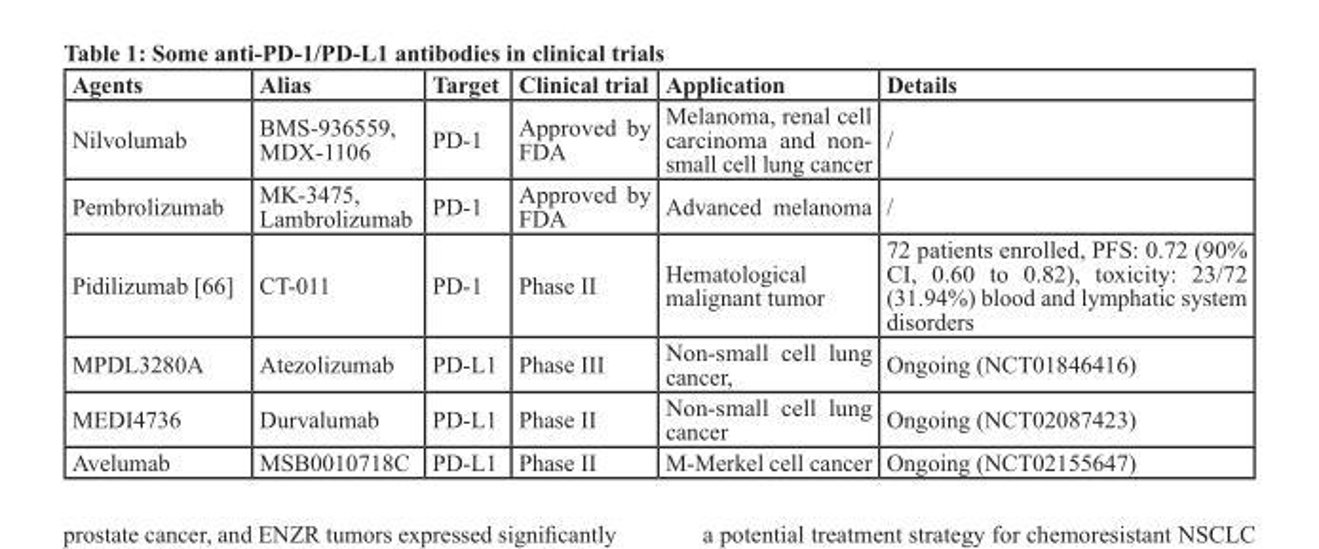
<table><thead><tr><td>Agents</td><td>Alias</td><td>Target</td><td>Clinical trial</td><td>Application</td><td>Details</td></tr></thead><tbody><tr><td>Nilvolumab</td><td>BMS-936559, MDX-1106</td><td>PD-1</td><td>Approved by FDA</td><td>Melanoma, renal cell carcinoma and non- small cell lung cancer</td><td>/</td></tr><tr><td>Pembrolizumab</td><td>MK-3475, Lambrolizumab</td><td>PD-1</td><td>Approved by FDA</td><td>Advanced melanoma</td><td>/</td></tr><tr><td>Pidilizumab [66]</td><td>CT-011</td><td>PD-1</td><td>Phase II</td><td>Hematological malignant tumor</td><td>72 patients enrolled, PFS: 0.72 (90% CI, 0.60 to 0.82), toxicity: 23/72 (31.94%) blood and lymphatic system disorders</td></tr><tr><td>MPDL3280A</td><td>Atezolizumab</td><td>PD-L1</td><td>Phase III</td><td>Non-small cell lung cancer,</td><td>Ongoing (NCT01846416)</td></tr><tr><td>MEDI4736</td><td>Durvalumab</td><td>PD-L1</td><td>Phase II</td><td>Non-small cell lung cancer</td><td>Ongoing (NCT02087423)</td></tr><tr><td>Avelumab</td><td>MSB0010718C</td><td>PD-L1</td><td>Phase II</td><td>M-Merkel cell cancer</td><td>Ongoing (NCT02155647)</td></tr></tbody></table>